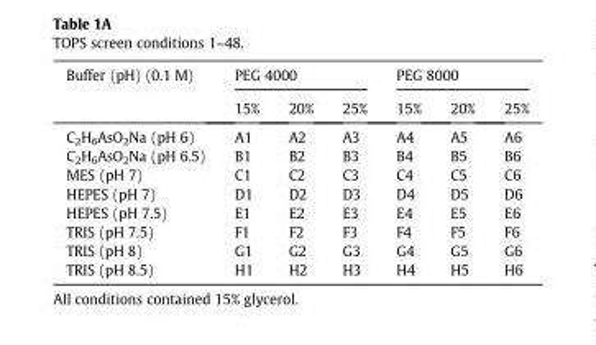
<table><thead><tr><td rowspan="2">Buffer (pH) (0.1 M)</td><td colspan="3">PEG 4000</td><td colspan="3">PEG 8000</td></tr><tr><td>15%</td><td>20%</td><td>25%</td><td>15%</td><td>20%</td><td>25%</td></tr></thead><tbody><tr><td>C<sub>2</sub>H<sub>6</sub>AsO<sub>2</sub>Na (pH 6)</td><td>A1</td><td>A2</td><td>A3</td><td>A4</td><td>A5</td><td>A6</td></tr><tr><td>C<sub>2</sub>H<sub>6</sub>AsO<sub>2</sub>Na (pH 6.5)</td><td>B1</td><td>B2</td><td>B3</td><td>B4</td><td>B5</td><td>B6</td></tr><tr><td>MES (pH 7)</td><td>C1</td><td>C2</td><td>C3</td><td>C4</td><td>C5</td><td>C6</td></tr><tr><td>HEPES (pH 7)</td><td>D1</td><td>D2</td><td>D3</td><td>D4</td><td>D5</td><td>D6</td></tr><tr><td>HEPES (pH 7.5)</td><td>E1</td><td>E2</td><td>E3</td><td>E4</td><td>E5</td><td>E6</td></tr><tr><td>TRIS (pH 7.5)</td><td>F1</td><td>F2</td><td>F3</td><td>F4</td><td>F5</td><td>F6</td></tr><tr><td>TRIS (pH 8)</td><td>G1</td><td>G2</td><td>G3</td><td>G4</td><td>G5</td><td>G6</td></tr><tr><td>TRIS (pH 8.5)</td><td>H1</td><td>H2</td><td>H3</td><td>H4</td><td>H5</td><td>H6</td></tr></tbody></table>